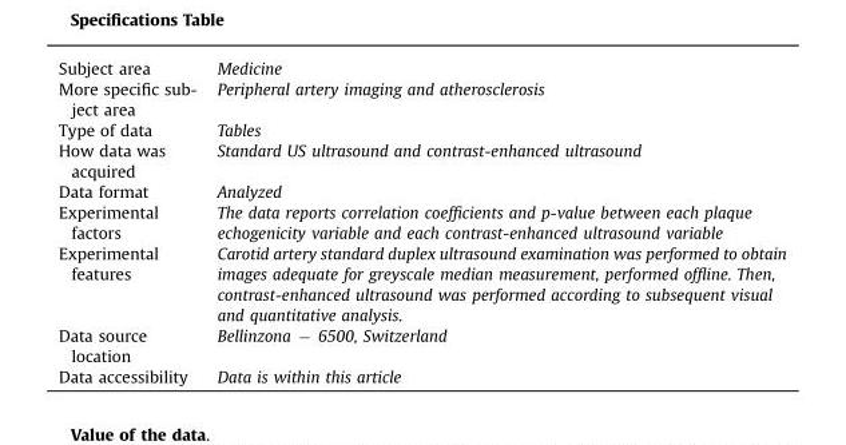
<table><tbody><tr><td>Subject area</td><td>Medicine</td></tr><tr><td>More specific sub- ject area</td><td>Peripheral artery imaging and atherosclerosis</td></tr><tr><td>Type of data</td><td>Tables</td></tr><tr><td>How data was acquired</td><td>Standard US ultrasound and contrast-enhanced ultrasound</td></tr><tr><td>Data format</td><td>Analyzed</td></tr><tr><td>Experimental factors</td><td>The data reports correlation coefficients and p-value between each plaque echogenicity variable and each contrast-enhanced ultrasound variable</td></tr><tr><td>Experimental features</td><td>Carotid artery standard duplex ultrasound examination was performed to obtain images adequate for greyscale median measurement, performed offline. Then, contrast-enhanced ultrasound was performed according to subsequent visual and quantitative analysis.</td></tr><tr><td>Data source location</td><td>Bellinzona − 6500, Switzerland</td></tr><tr><td>Data accessibility</td><td>Data is within this article</td></tr></tbody></table>